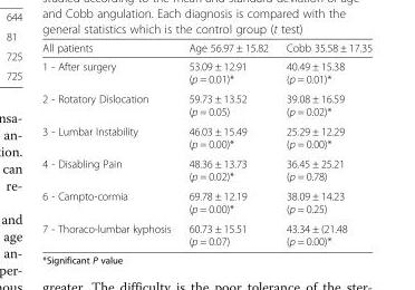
<table><thead><tr><td>All patients</td><td>Age 56.97 ± 15.82</td><td>Cobb 35.58 ± 17.35</td></tr></thead><tbody><tr><td>1 - After surgery</td><td>53.09 ± 12.91 (p = 0.01)*</td><td>40.49 ± 15.38 (p = 0.01)*</td></tr><tr><td>2 - Rotatory Dislocation</td><td>59.73 ± 13.52 (p = 0.05)</td><td>39.08 ± 16.59 (p = 0.02)*</td></tr><tr><td>3 - Lumbar Instability</td><td>46.03 ± 15.49 (p = 0.00)*</td><td>25.29 ± 12.29 (p = 0.00)*</td></tr><tr><td>4 - Disabling Pain</td><td>48.36 ± 13.73 (p = 0.02)*</td><td>36.45 ± 25.21 (p = 0.78)</td></tr><tr><td>6 - Campto-cormia</td><td>69.78 ± 12.19 (p = 0.00)*</td><td>38.09 ± 14.23 (p = 0.25)</td></tr><tr><td>7 - Thoraco-lumbar kyphosis</td><td>60.73 ± 15.51 (p = 0.07)</td><td>43.34 ± (21.48 (p = 0.00)*</td></tr></tbody></table>